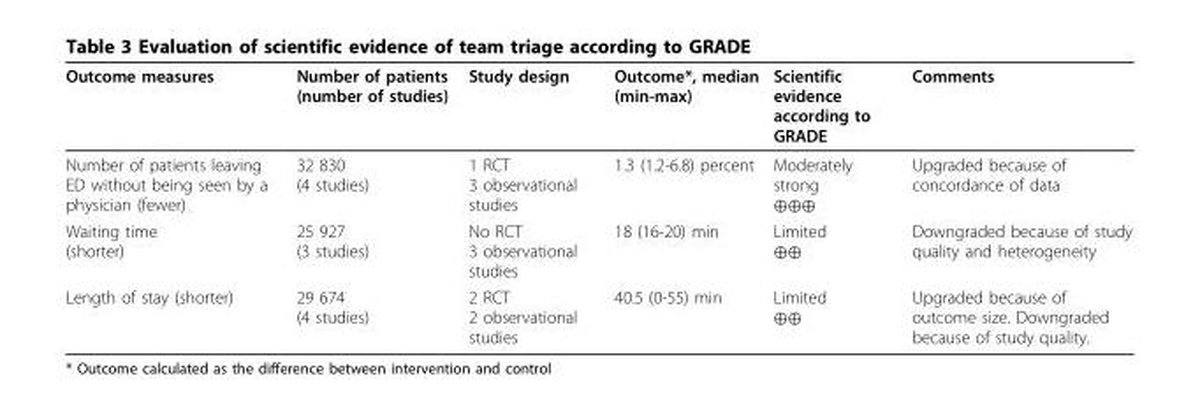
<table><thead><tr><td>Outcome measures</td><td>Number of patients (number of studies)</td><td>Study design</td><td>Outcome*, median (min-max)</td><td>Scientific evidence according to GRADE</td><td>Comments</td></tr></thead><tbody><tr><td>Number of patients leaving ED without being seen by a physician (fewer)</td><td>32 830 (4 studies)</td><td>1 RCT 3 observational studies</td><td>1.3 (1.2-6.8) percent</td><td>Moderately strong ⊕⊕⊕</td><td>Upgraded because of concordance of data</td></tr><tr><td>Waiting time (shorter)</td><td>25 927 (3 studies)</td><td>No RCT 3 observational studies</td><td>18 (16-20) min</td><td>Limited ⊕⊕</td><td>Downgraded because of study quality and heterogeneity</td></tr><tr><td>Length of stay (shorter)</td><td>29 674 (4 studies)</td><td>2 RCT 2 observational studies</td><td>40.5 (0-55) min</td><td>Limited ⊕⊕</td><td>Upgraded because of outcome size. Downgraded because of study quality.</td></tr></tbody></table>